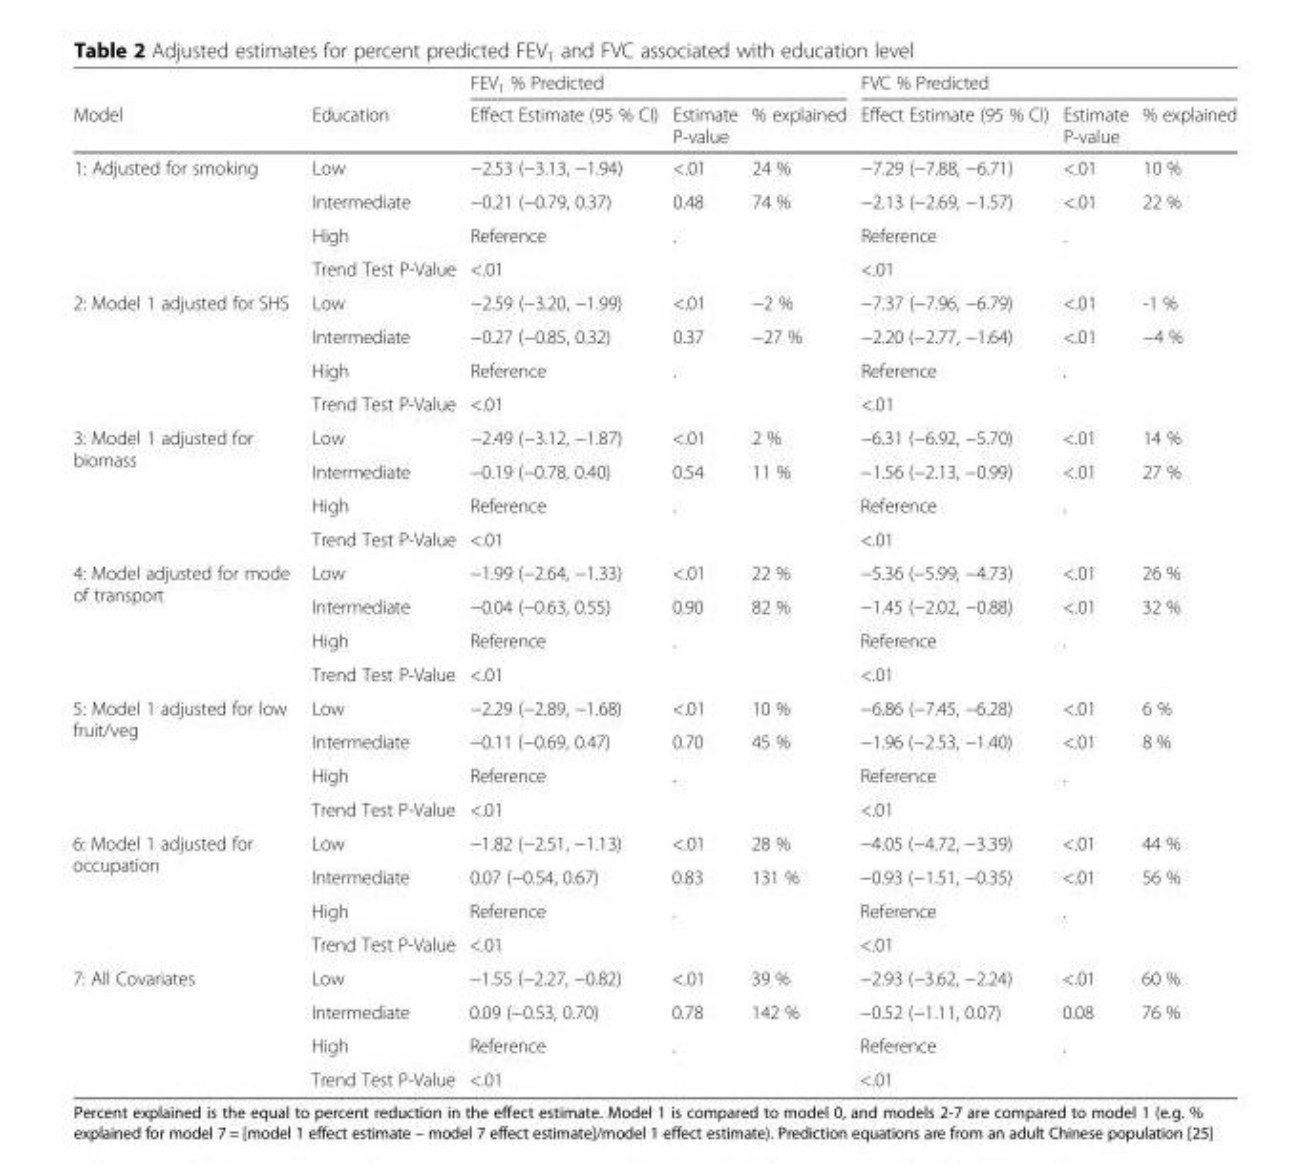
<table><thead><tr><td rowspan="2">Model</td><td rowspan="2">Education</td><td colspan="3">FEV<sub>1</sub> % Predicted</td><td colspan="3">FVC % Predicted</td></tr><tr><td>Effect Estimate (95 % CI)</td><td>Estimate P-value</td><td>% explained</td><td>Effect Estimate (95 % CI)</td><td>Estimate P-value</td><td>% explained</td></tr></thead><tbody><tr><td rowspan="4">1: Adjusted for smoking</td><td>Low</td><td>−2.53 (−3.13, −1.94)</td><td>&lt;.01</td><td>24 %</td><td>−7.29 (−7.88, −6.71)</td><td>&lt;.01</td><td>10 %</td></tr><tr><td>Intermediate</td><td>−0.21 (−0.79, 0.37)</td><td>0.48</td><td>74 %</td><td>−2.13 (−2.69, −1.57)</td><td>&lt;.01</td><td>22 %</td></tr><tr><td>High</td><td>Reference</td><td>.</td><td></td><td>Reference</td><td>.</td><td></td></tr><tr><td>Trend Test P-Value</td><td>&lt;.01</td><td></td><td></td><td>&lt;.01</td><td></td><td></td></tr><tr><td rowspan="4">2: Model 1 adjusted for SHS</td><td>Low</td><td>−2.59 (−3.20, −1.99)</td><td>&lt;.01</td><td>−2 %</td><td>−7.37 (−7.96, −6.79)</td><td>&lt;.01</td><td>-1 %</td></tr><tr><td>Intermediate</td><td>−0.27 (−0.85, 0.32)</td><td>0.37</td><td>−27 %</td><td>−2.20 (−2.77, −1.64)</td><td>&lt;.01</td><td>−4 %</td></tr><tr><td>High</td><td>Reference</td><td>.</td><td></td><td>Reference</td><td>.</td><td></td></tr><tr><td>Trend Test P-Value</td><td>&lt;.01</td><td></td><td></td><td>&lt;.01</td><td></td><td></td></tr><tr><td rowspan="4">3: Model 1 adjusted for biomass</td><td>Low</td><td>−2.49 (−3.12, −1.87)</td><td>&lt;.01</td><td>2 %</td><td>−6.31 (−6.92, −5.70)</td><td>&lt;.01</td><td>14 %</td></tr><tr><td>Intermediate</td><td>−0.19 (−0.78, 0.40)</td><td>0.54</td><td>11 %</td><td>−1.56 (−2.13, −0.99)</td><td>&lt;.01</td><td>27 %</td></tr><tr><td>High</td><td>Reference</td><td>.</td><td></td><td>Reference</td><td>.</td><td></td></tr><tr><td>Trend Test P-Value</td><td>&lt;.01</td><td></td><td></td><td>&lt;.01</td><td></td><td></td></tr><tr><td rowspan="4">4: Model adjusted for mode of transport</td><td>Low</td><td>−1.99 (−2.64, −1.33)</td><td>&lt;.01</td><td>22 %</td><td>−5.36 (−5.99, −4.73)</td><td>&lt;.01</td><td>26 %</td></tr><tr><td>Intermediate</td><td>−0.04 (−0.63, 0.55)</td><td>0.90</td><td>82 %</td><td>−1.45 (−2.02, −0.88)</td><td>&lt;.01</td><td>32 %</td></tr><tr><td>High</td><td>Reference</td><td>.</td><td></td><td>Reference</td><td>.</td><td></td></tr><tr><td>Trend Test P-Value</td><td>&lt;.01</td><td></td><td></td><td>&lt;.01</td><td></td><td></td></tr><tr><td rowspan="4">5: Model 1 adjusted for low fruit/veg</td><td>Low</td><td>−2.29 (−2.89, −1.68)</td><td>&lt;.01</td><td>10 %</td><td>−6.86 (−7.45, −6.28)</td><td>&lt;.01</td><td>6 %</td></tr><tr><td>Intermediate</td><td>−0.11 (−0.69, 0.47)</td><td>0.70</td><td>45 %</td><td>−1.96 (−2.53, −1.40)</td><td>&lt;.01</td><td>8 %</td></tr><tr><td>High</td><td>Reference</td><td>.</td><td></td><td>Reference</td><td>.</td><td></td></tr><tr><td>Trend Test P-Value</td><td>&lt;.01</td><td></td><td></td><td>&lt;.01</td><td></td><td></td></tr><tr><td rowspan="4">6: Model 1 adjusted for occupation</td><td>Low</td><td>−1.82 (−2.51, −1.13)</td><td>&lt;.01</td><td>28 %</td><td>−4.05 (−4.72, −3.39)</td><td>&lt;.01</td><td>44 %</td></tr><tr><td>Intermediate</td><td>0.07 (−0.54, 0.67)</td><td>0.83</td><td>131 %</td><td>−0.93 (−1.51, −0.35)</td><td>&lt;.01</td><td>56 %</td></tr><tr><td>High</td><td>Reference</td><td>.</td><td></td><td>Reference</td><td>.</td><td></td></tr><tr><td>Trend Test P-Value</td><td>&lt;.01</td><td></td><td></td><td>&lt;.01</td><td></td><td></td></tr><tr><td rowspan="4">7: All Covariates</td><td>Low</td><td>−1.55 (−2.27, −0.82)</td><td>&lt;.01</td><td>39 %</td><td>−2.93 (−3.62, −2.24)</td><td>&lt;.01</td><td>60 %</td></tr><tr><td>Intermediate</td><td>0.09 (−0.53, 0.70)</td><td>0.78</td><td>142 %</td><td>−0.52 (−1.11, 0.07)</td><td>0.08</td><td>76 %</td></tr><tr><td>High</td><td>Reference</td><td>.</td><td></td><td>Reference</td><td>.</td><td></td></tr><tr><td>Trend Test P-Value</td><td>&lt;.01</td><td></td><td></td><td>&lt;.01</td><td></td><td></td></tr></tbody></table>